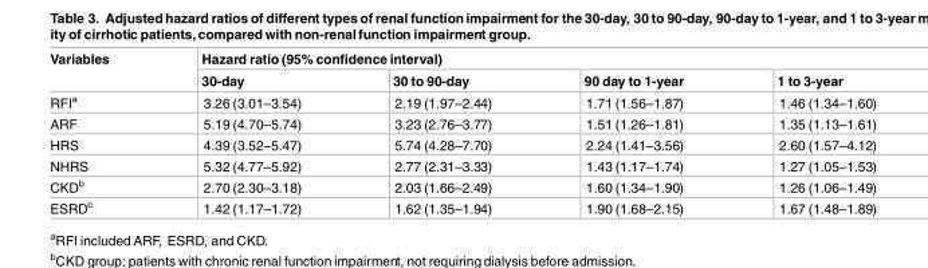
<table><thead><tr><td rowspan="2">Variables</td><td colspan="4">Hazard ratio (95% confidence interval)</td></tr><tr><td>30-day</td><td>30 to 90-day</td><td>90 day to 1-year</td><td>1 to 3-year</td></tr></thead><tbody><tr><td>RFI<sup>a</sup></td><td>3.26 (3.01–3.54)</td><td>2.19 (1.97–2.44)</td><td>1.71 (1.56–1.87)</td><td>1.46 (1.34–1.60)</td></tr><tr><td>ARF</td><td>5.19 (4.70–5.74)</td><td>3.23 (2.76–3.77)</td><td>1.51 (1.26–1.81)</td><td>1.35 (1.13–1.61)</td></tr><tr><td>HRS</td><td>4.39 (3.52–5.47)</td><td>5.74 (4.28–7.70)</td><td>2.24 (1.41–3.56)</td><td>2.60 (1.57–4.12)</td></tr><tr><td>NHRS</td><td>5.32 (4.77–5.92)</td><td>2.77 (2.31–3.33)</td><td>1.43 (1.17–1.74)</td><td>1.27 (1.05–1.53)</td></tr><tr><td>CKD<sup>b</sup></td><td>2.70 (2.30–3.18)</td><td>2.03 (1.66–2.49)</td><td>1.60 (1.34–1.90)</td><td>1.26 (1.06–1.49)</td></tr><tr><td>ESRD<sup>c</sup></td><td>1.42 (1.17–1.72)</td><td>1.62 (1.35–1.94)</td><td>1.90 (1.68–2.15)</td><td>1.67 (1.48–1.89)</td></tr></tbody></table>